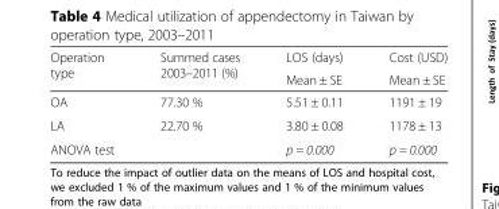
<table><thead><tr><td rowspan="2">Operation type</td><td rowspan="2">Summed cases 2003–2011 (%)</td><td rowspan="2">LOS (days) Mean ± SE</td><td rowspan="2">Cost (USD) Mean ± SE</td></tr><tr></tr></thead><tbody><tr><td>OA</td><td>77.30 %</td><td>5.51 ± 0.11</td><td>1191 ± 19</td></tr><tr><td>LA</td><td>22.70 %</td><td>3.80 ± 0.08</td><td>1178 ± 13</td></tr><tr><td>ANOVA test</td><td></td><td>p = 0.000</td><td>p = 0.000</td></tr></tbody></table>